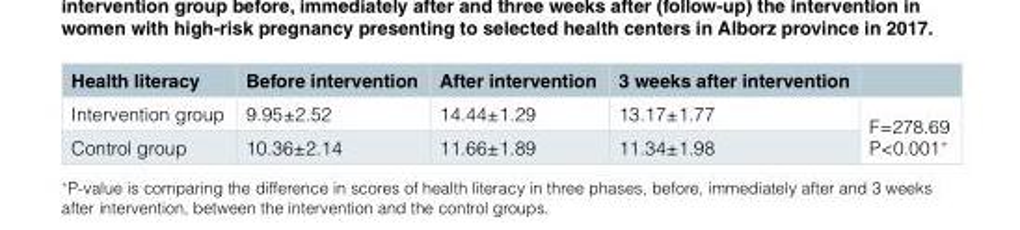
<table><thead><tr><td>Health literacy</td><td>Before intervention</td><td>After intervention</td><td>3 weeks after intervention</td><td></td></tr></thead><tbody><tr><td>Intervention group</td><td>9.95±2.52</td><td>14.44±1.29</td><td>13.17±1.77</td><td rowspan="2">F=278.69 P&lt;0.001*</td></tr><tr><td>Control group</td><td>10.36±2.14</td><td>11.66±1.89</td><td>11.34±1.98</td></tr></tbody></table>